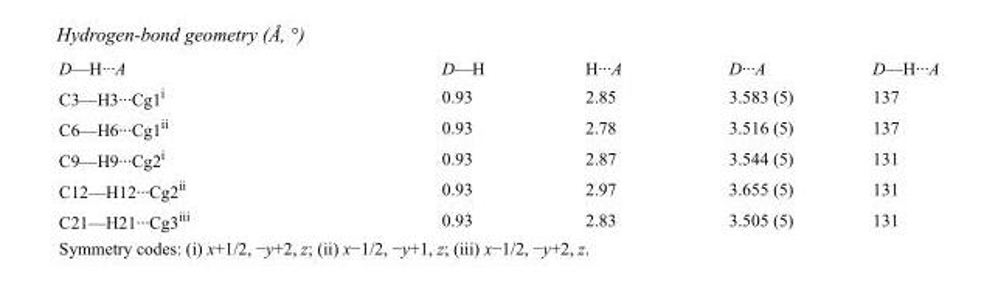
<table><tbody><tr><td>D—H···A</td><td>D—H</td><td>H···A</td><td>D···A</td><td>D—H···A</td></tr><tr><td>C3—H3···Cg1<sup>i</sup></td><td>0.93</td><td>2.85</td><td>3.583 (5)</td><td>137</td></tr><tr><td>C6—H6···Cg1<sup>ii</sup></td><td>0.93</td><td>2.78</td><td>3.516 (5)</td><td>137</td></tr><tr><td>C9—H9···Cg2<sup>i</sup></td><td>0.93</td><td>2.87</td><td>3.544 (5)</td><td>131</td></tr><tr><td>C12—H12···Cg2<sup>ii</sup></td><td>0.93</td><td>2.97</td><td>3.655 (5)</td><td>131</td></tr><tr><td>C21—H21···Cg3<sup>iii</sup></td><td>0.93</td><td>2.83</td><td>3.505 (5)</td><td>131</td></tr></tbody></table>